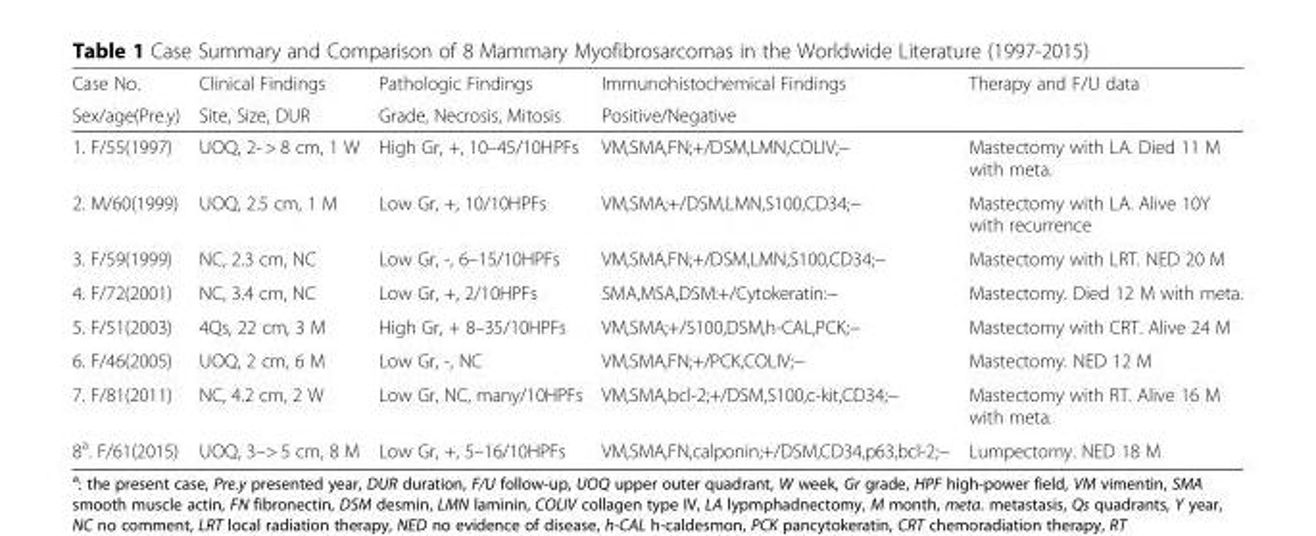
<table><thead><tr><td rowspan="2">Case No. Sex/age(Pre.y)</td><td rowspan="2">Clinical Findings Site, Size, DUR</td><td rowspan="2">Pathologic Findings Grade, Necrosis, Mitosis</td><td rowspan="2">Immunohistochemical Findings Positive/Negative</td><td rowspan="2">Therapy and F/U data</td></tr><tr></tr></thead><tbody><tr><td>1. F/55(1997)</td><td>UOQ, 2- &gt; 8 cm, 1 W</td><td>High Gr, +, 10–45/10HPFs</td><td>VM,SMA,FN;+/DSM,LMN,COLIV;−</td><td>Mastectomy with LA. Died 11 M with meta.</td></tr><tr><td>2. M/60(1999)</td><td>UOQ, 2.5 cm, 1 M</td><td>Low Gr, +, 10/10HPFs</td><td>VM,SMA;+/DSM,LMN,S100,CD34;−</td><td>Mastectomy with LA. Alive 10Y with recurrence</td></tr><tr><td>3. F/59(1999)</td><td>NC, 2.3 cm, NC</td><td>Low Gr, -, 6–15/10HPFs</td><td>VM,SMA,FN;+/DSM,LMN,S100,CD34;−</td><td>Mastectomy with LRT. NED 20 M</td></tr><tr><td>4. F/72(2001)</td><td>NC, 3.4 cm, NC</td><td>Low Gr, +, 2/10HPFs</td><td>SMA,MSA,DSM:+/Cytokeratin:−</td><td>Mastectomy. Died 12 M with meta.</td></tr><tr><td>5. F/51(2003)</td><td>4Qs, 22 cm, 3 M</td><td>High Gr, + 8–35/10HPFs</td><td>VM,SMA;+/S100,DSM,h-CAL,PCK;−</td><td>Mastectomy with CRT. Alive 24 M</td></tr><tr><td>6. F/46(2005)</td><td>UOQ, 2 cm, 6 M</td><td>Low Gr, -, NC</td><td>VM,SMA,FN;+/PCK,COLIV;−</td><td>Mastectomy. NED 12 M</td></tr><tr><td>7. F/81(2011)</td><td>NC, 4.2 cm, 2 W</td><td>Low Gr, NC, many/10HPFs</td><td>VM,SMA,bcl-2;+/DSM,S100,c-kit,CD34;−</td><td>Mastectomy with RT. Alive 16 M with meta.</td></tr><tr><td>8<sup>a</sup>. F/61(2015)</td><td>UOQ, 3–&gt; 5 cm, 8 M</td><td>Low Gr, +, 5–16/10HPFs</td><td>VM,SMA,FN,calponin;+/DSM,CD34,p63,bcl-2;−</td><td>Lumpectomy. NED 18 M</td></tr></tbody></table>